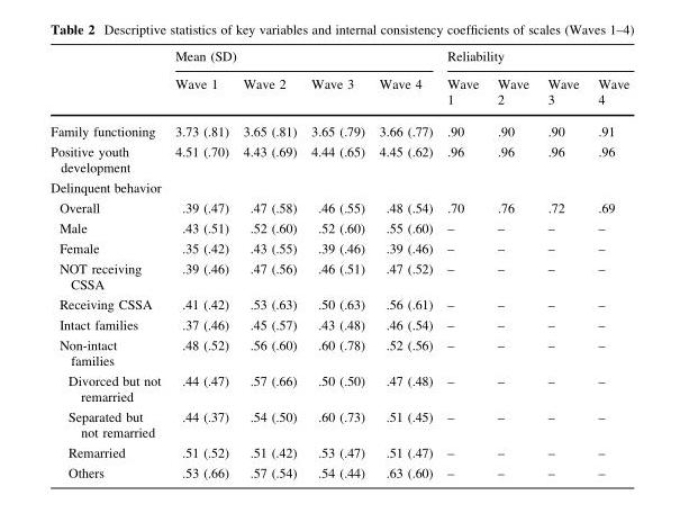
<table><thead><tr><td rowspan="2"></td><td colspan="4">Mean (SD)</td><td colspan="4">Reliability</td></tr><tr><td>Wave 1</td><td>Wave 2</td><td>Wave 3</td><td>Wave 4</td><td>Wave 1</td><td>Wave 2</td><td>Wave 3</td><td>Wave 4</td></tr></thead><tbody><tr><td>Family functioning</td><td>3.73 (.81)</td><td>3.65 (.81)</td><td>3.65 (.79)</td><td>3.66 (.77)</td><td>.90</td><td>.90</td><td>.90</td><td>.91</td></tr><tr><td>Positive youth development</td><td>4.51 (.70)</td><td>4.43 (.69)</td><td>4.44 (.65)</td><td>4.45 (.62)</td><td>.96</td><td>.96</td><td>.96</td><td>.96</td></tr><tr><td colspan="9">Delinquent behavior</td></tr><tr><td>Overall</td><td>.39 (.47)</td><td>.47 (.58)</td><td>.46 (.55)</td><td>.48 (.54)</td><td>.70</td><td>.76</td><td>.72</td><td>.69</td></tr><tr><td>Male</td><td>.43 (.51)</td><td>.52 (.60)</td><td>.52 (.60)</td><td>.55 (.60)</td><td>–</td><td>–</td><td>–</td><td>–</td></tr><tr><td>Female</td><td>.35 (.42)</td><td>.43 (.55)</td><td>.39 (.46)</td><td>.39 (.46)</td><td>–</td><td>–</td><td>–</td><td>–</td></tr><tr><td>NOT receiving CSSA</td><td>.39 (.46)</td><td>.47 (.56)</td><td>.46 (.51)</td><td>.47 (.52)</td><td>–</td><td>–</td><td>–</td><td>–</td></tr><tr><td>Receiving CSSA</td><td>.41 (.42)</td><td>.53 (.63)</td><td>.50 (.63)</td><td>.56 (.61)</td><td>–</td><td>–</td><td>–</td><td>–</td></tr><tr><td>Intact families</td><td>.37 (.46)</td><td>.45 (.57)</td><td>.43 (.48)</td><td>.46 (.54)</td><td>–</td><td>–</td><td>–</td><td>–</td></tr><tr><td>Non-intact families</td><td>.48 (.52)</td><td>.56 (.60)</td><td>.60 (.78)</td><td>.52 (.56)</td><td>–</td><td>–</td><td>–</td><td>–</td></tr><tr><td>Divorced but not remarried</td><td>.44 (.47)</td><td>.57 (.66)</td><td>.50 (.50)</td><td>.47 (.48)</td><td>–</td><td>–</td><td>–</td><td>–</td></tr><tr><td>Separated but not remarried</td><td>.44 (.37)</td><td>.54 (.50)</td><td>.60 (.73)</td><td>.51 (.45)</td><td>–</td><td>–</td><td>–</td><td>–</td></tr><tr><td>Remarried</td><td>.51 (.52)</td><td>.51 (.42)</td><td>.53 (.47)</td><td>.51 (.47)</td><td>–</td><td>–</td><td>–</td><td>–</td></tr><tr><td>Others</td><td>.53 (.66)</td><td>.57 (.54)</td><td>.54 (.44)</td><td>.63 (.60)</td><td>–</td><td>–</td><td>–</td><td>–</td></tr></tbody></table>